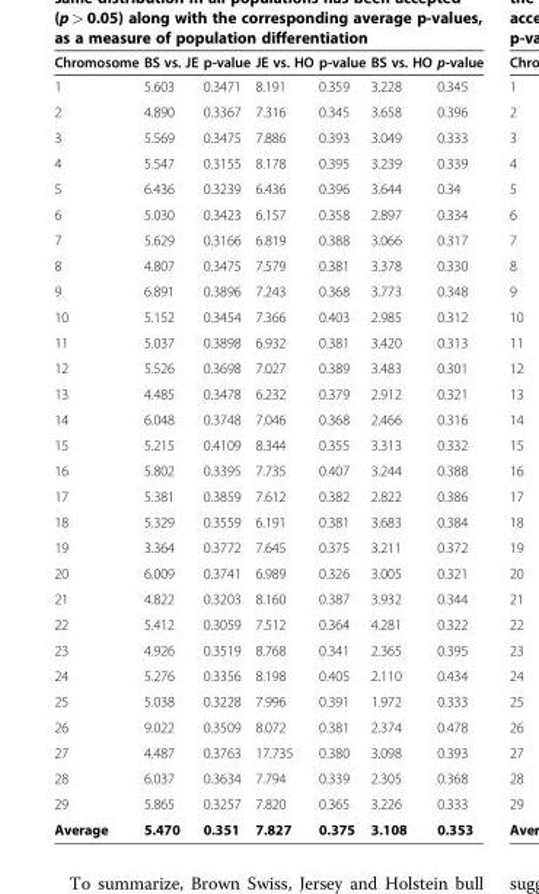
<table><thead><tr><td>Chromosome</td><td>BS vs. JE</td><td>p-value</td><td>JE vs. HO</td><td>p-value</td><td>BS vs. HO</td><td>p-value</td></tr></thead><tbody><tr><td>1</td><td>5.603</td><td>0.3471</td><td>8.191</td><td>0.359</td><td>3.228</td><td>0.345</td></tr><tr><td>2</td><td>4.890</td><td>0.3367</td><td>7.316</td><td>0.345</td><td>3.658</td><td>0.396</td></tr><tr><td>3</td><td>5.569</td><td>0.3475</td><td>7.886</td><td>0.393</td><td>3.049</td><td>0.333</td></tr><tr><td>4</td><td>5.547</td><td>0.3155</td><td>8.178</td><td>0.395</td><td>3.239</td><td>0.339</td></tr><tr><td>5</td><td>6.436</td><td>0.3239</td><td>6.436</td><td>0.396</td><td>3.644</td><td>0.34</td></tr><tr><td>6</td><td>5.030</td><td>0.3423</td><td>6.157</td><td>0.358</td><td>2.897</td><td>0.334</td></tr><tr><td>7</td><td>5.629</td><td>0.3166</td><td>6.819</td><td>0.388</td><td>3.066</td><td>0.317</td></tr><tr><td>8</td><td>4.807</td><td>0.3475</td><td>7.579</td><td>0.381</td><td>3.378</td><td>0.330</td></tr><tr><td>9</td><td>6.891</td><td>0.3896</td><td>7.243</td><td>0.368</td><td>3.773</td><td>0.348</td></tr><tr><td>10</td><td>5.152</td><td>0.3454</td><td>7.366</td><td>0.403</td><td>2.985</td><td>0.312</td></tr><tr><td>11</td><td>5.037</td><td>0.3898</td><td>6.932</td><td>0.381</td><td>3.420</td><td>0.313</td></tr><tr><td>12</td><td>5.526</td><td>0.3698</td><td>7.027</td><td>0.389</td><td>3.483</td><td>0.301</td></tr><tr><td>13</td><td>4.485</td><td>0.3478</td><td>6.232</td><td>0.379</td><td>2.912</td><td>0.321</td></tr><tr><td>14</td><td>6.048</td><td>0.3748</td><td>7.046</td><td>0.368</td><td>2.466</td><td>0.316</td></tr><tr><td>15</td><td>5.215</td><td>0.4109</td><td>8.344</td><td>0.355</td><td>3.313</td><td>0.332</td></tr><tr><td>16</td><td>5.802</td><td>0.3395</td><td>7.735</td><td>0.407</td><td>3.244</td><td>0.388</td></tr><tr><td>17</td><td>5.381</td><td>0.3859</td><td>7.612</td><td>0.382</td><td>2.822</td><td>0.386</td></tr><tr><td>18</td><td>5.329</td><td>0.3559</td><td>6.191</td><td>0.381</td><td>3.683</td><td>0.384</td></tr><tr><td>19</td><td>3.364</td><td>0.3772</td><td>7.645</td><td>0.375</td><td>3.211</td><td>0.372</td></tr><tr><td>20</td><td>6.009</td><td>0.3741</td><td>6.989</td><td>0.326</td><td>3.005</td><td>0.321</td></tr><tr><td>21</td><td>4.822</td><td>0.3203</td><td>8.160</td><td>0.387</td><td>3.932</td><td>0.344</td></tr><tr><td>22</td><td>5.412</td><td>0.3059</td><td>7.512</td><td>0.364</td><td>4.281</td><td>0.322</td></tr><tr><td>23</td><td>4.926</td><td>0.3519</td><td>8.768</td><td>0.341</td><td>2.365</td><td>0.395</td></tr><tr><td>24</td><td>5.276</td><td>0.3356</td><td>8.198</td><td>0.405</td><td>2.110</td><td>0.434</td></tr><tr><td>25</td><td>5.038</td><td>0.3228</td><td>7.996</td><td>0.391</td><td>1.972</td><td>0.333</td></tr><tr><td>26</td><td>9.022</td><td>0.3509</td><td>8.072</td><td>0.381</td><td>2.374</td><td>0.478</td></tr><tr><td>27</td><td>4.487</td><td>0.3763</td><td>17.735</td><td>0.380</td><td>3.098</td><td>0.393</td></tr><tr><td>28</td><td>6.037</td><td>0.3634</td><td>7.794</td><td>0.339</td><td>2.305</td><td>0.368</td></tr><tr><td>29</td><td>5.865</td><td>0.3257</td><td>7.820</td><td>0.365</td><td>3.226</td><td>0.333</td></tr><tr><td>Average</td><td>5.470</td><td>0.351</td><td>7.827</td><td>0.375</td><td>3.108</td><td>0.353</td></tr></tbody></table>